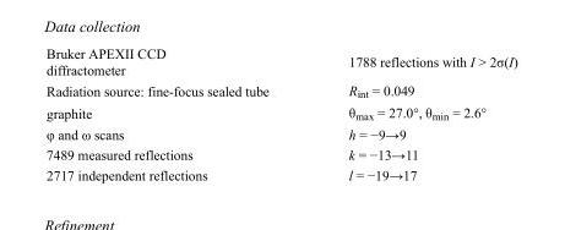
<table><tbody><tr><td>Bruker APEXII CCD diffractometer</td><td>1788 reflections with I &gt; 2σ(I)</td></tr><tr><td>Radiation source: fine-focus sealed tube</td><td>R<sub>int</sub> = 0.049</td></tr><tr><td>graphite</td><td>θ<sub>max</sub> = 27.0°, θ<sub>min</sub> = 2.6°</td></tr><tr><td>φ and ω scans</td><td>h = −9→9</td></tr><tr><td>7489 measured reflections</td><td>k = −13→11</td></tr><tr><td>2717 independent reflections</td><td>l = −19→17</td></tr></tbody></table>